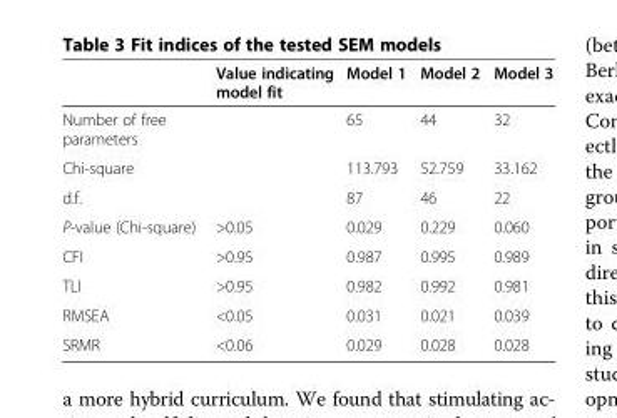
<table><thead><tr><td></td><td>Value indicating model fit</td><td>Model 1</td><td>Model 2</td><td>Model 3</td></tr></thead><tbody><tr><td>Number of free parameters</td><td></td><td>65</td><td>44</td><td>32</td></tr><tr><td>Chi-square</td><td></td><td>113.793</td><td>52.759</td><td>33.162</td></tr><tr><td>d.f.</td><td></td><td>87</td><td>46</td><td>22</td></tr><tr><td>P-value (Chi-square)</td><td>&gt;0.05</td><td>0.029</td><td>0.229</td><td>0.060</td></tr><tr><td>CFI</td><td>&gt;0.95</td><td>0.987</td><td>0.995</td><td>0.989</td></tr><tr><td>TLI</td><td>&gt;0.95</td><td>0.982</td><td>0.992</td><td>0.981</td></tr><tr><td>RMSEA</td><td>&lt;0.05</td><td>0.031</td><td>0.021</td><td>0.039</td></tr><tr><td>SRMR</td><td>&lt;0.06</td><td>0.029</td><td>0.028</td><td>0.028</td></tr></tbody></table>